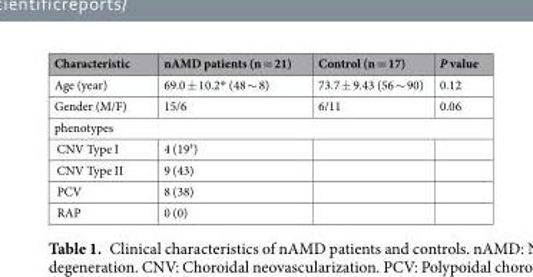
<table><thead><tr><td>Characteristic</td><td>nAMD patients (n = 21)</td><td>Control (n = 17)</td><td>P value</td></tr></thead><tbody><tr><td>Age (year)</td><td>69.0 ± 10.2* (48 ∼ 8)</td><td>73.7 ± 9.43 (56 ∼ 90)</td><td>0.12</td></tr><tr><td>Gender (M/F)</td><td>15/6</td><td>6/11</td><td>0.06</td></tr><tr><td colspan="4">phenotypes</td></tr><tr><td>CNV Type I</td><td>4 (19<sup>†</sup>)</td><td></td><td></td></tr><tr><td>CNV Type II</td><td>9 (43)</td><td></td><td></td></tr><tr><td>PCV</td><td>8 (38)</td><td></td><td></td></tr><tr><td>RAP</td><td>0 (0)</td><td></td><td></td></tr></tbody></table>